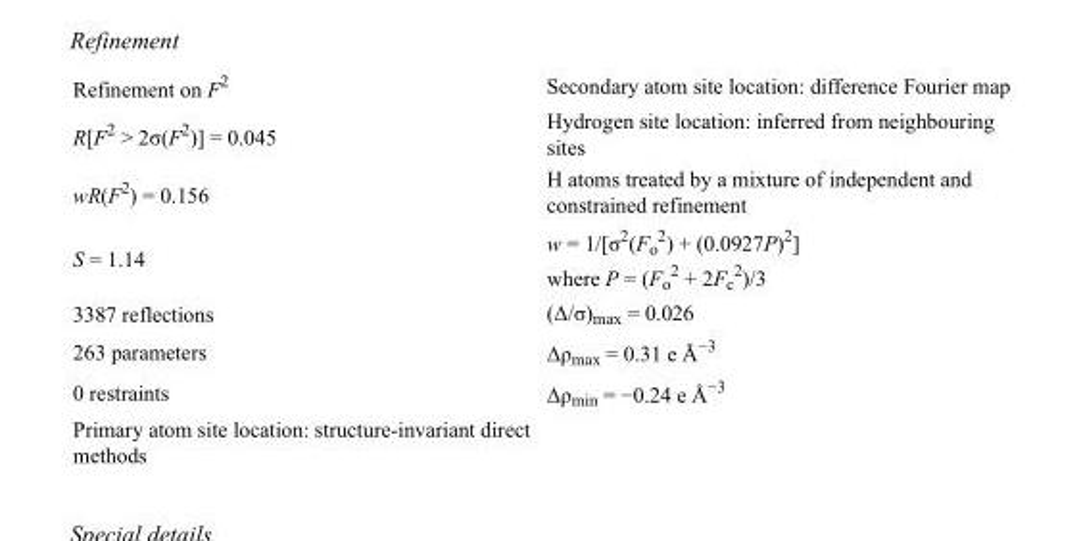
<table><tbody><tr><td>Refinement on F<sup>2</sup></td><td>Secondary atom site location: difference Fourier map</td></tr><tr><td>R[F<sup>2</sup> &gt; 2σ(F<sup>2</sup>)] = 0.045</td><td>Hydrogen site location: inferred from neighbouring sites</td></tr><tr><td>wR(F<sup>2</sup>) = 0.156</td><td>H atoms treated by a mixture of independent and constrained refinement</td></tr><tr><td>S = 1.14</td><td>w = 1/[σ<sup>2</sup>(F<sub>o</sub> <sup>2</sup>) + (0.0927P)<sup>2</sup>] where P = (F<sub>o</sub> <sup>2</sup> + 2F<sub>c</sub> <sup>2</sup>)/3</td></tr><tr><td>3387 reflections</td><td>(Δ/σ)<sub>max</sub> = 0.026</td></tr><tr><td>263 parameters</td><td>Δρ<sub>max</sub> = 0.31 e Å<sup>−3</sup></td></tr><tr><td>0 restraints</td><td>Δρ<sub>min</sub> = −0.24 e Å<sup>−3</sup></td></tr><tr><td>Primary atom site location: structure-invariant direct methods</td><td></td></tr></tbody></table>